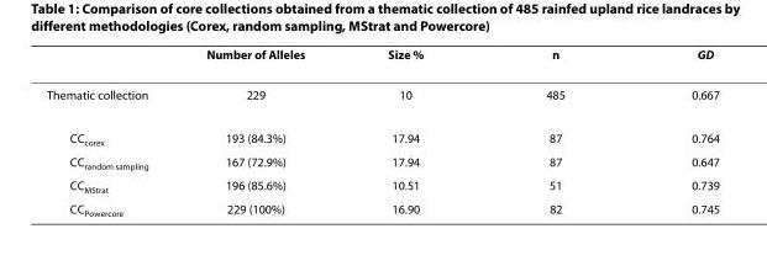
<table><thead><tr><td></td><td>Number of Alleles</td><td>Size %</td><td>n</td><td>GD</td></tr></thead><tbody><tr><td>Thematic collection</td><td>229</td><td>10</td><td>485</td><td>0.667</td></tr><tr><td>CC<sub>corex</sub></td><td>193 (84.3%)</td><td>17.94</td><td>87</td><td>0.764</td></tr><tr><td>CC<sub>random sampling</sub></td><td>167 (72.9%)</td><td>17.94</td><td>87</td><td>0.647</td></tr><tr><td>CC<sub>MStrat</sub></td><td>196 (85.6%)</td><td>10.51</td><td>51</td><td>0.739</td></tr><tr><td>CC<sub>Powercore</sub></td><td>229 (100%)</td><td>16.90</td><td>82</td><td>0.745</td></tr></tbody></table>